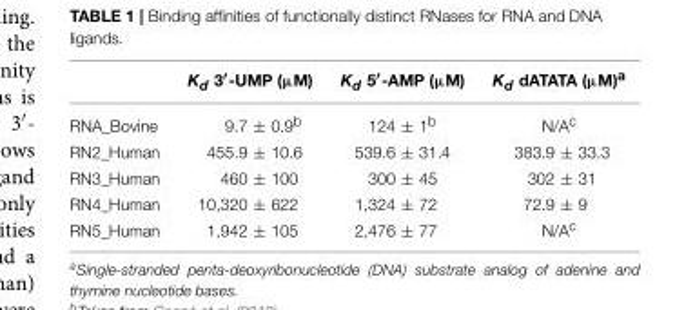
<table><thead><tr><td></td><td>Kd 3′-UMP (µM)</td><td>Kd 5′-AMP (µM)</td><td>Kd dATATA (µM)a</td></tr></thead><tbody><tr><td>RNA_Bovine</td><td>9.7 ± 0.9<sup>b</sup></td><td>124 ± 1<sup>b</sup></td><td>N/A<sup>c</sup></td></tr><tr><td>RN2_Human</td><td>455.9 ± 10.6</td><td>539.6 ± 31.4</td><td>383.9 ± 33.3</td></tr><tr><td>RN3_Human</td><td>460 ± 100</td><td>300 ± 45</td><td>302 ± 31</td></tr><tr><td>RN4_Human</td><td>10,320 ± 622</td><td>1,324 ± 72</td><td>72.9 ± 9</td></tr><tr><td>RN5_Human</td><td>1,942 ± 105</td><td>2,476 ± 77</td><td>N/A<sup>c</sup></td></tr></tbody></table>